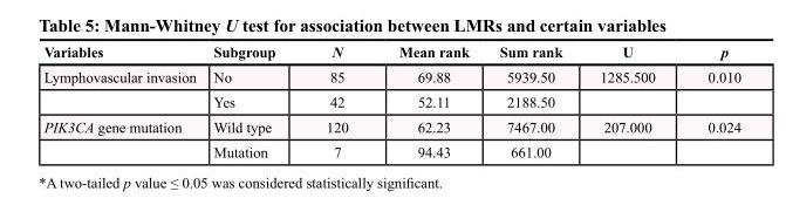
<table><thead><tr><td>Variables</td><td>Subgroup</td><td>N</td><td>Mean rank</td><td>Sum rank</td><td>U</td><td>p</td></tr></thead><tbody><tr><td rowspan="2">Lymphovascular invasion</td><td>No</td><td>85</td><td>69.88</td><td>5939.50</td><td>1285.500</td><td>0.010</td></tr><tr><td>Yes</td><td>42</td><td>52.11</td><td>2188.50</td><td></td><td></td></tr><tr><td rowspan="2">PIK3CA gene mutation</td><td>Wild type</td><td>120</td><td>62.23</td><td>7467.00</td><td>207.000</td><td>0.024</td></tr><tr><td>Mutation</td><td>7</td><td>94.43</td><td>661.00</td><td></td><td></td></tr></tbody></table>